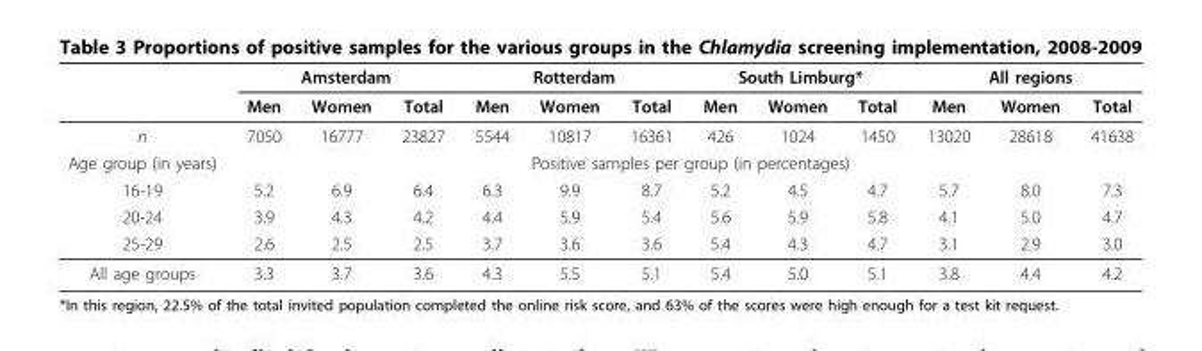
<table><thead><tr><td rowspan="2"></td><td colspan="3">Amsterdam</td><td colspan="3">Rotterdam</td><td colspan="3">South Limburg*</td><td colspan="3">All regions</td></tr><tr><td>Men</td><td>Women</td><td>Total</td><td>Men</td><td>Women</td><td>Total</td><td>Men</td><td>Women</td><td>Total</td><td>Men</td><td>Women</td><td>Total</td></tr></thead><tbody><tr><td>n</td><td>7050</td><td>16777</td><td>23827</td><td>5544</td><td>10817</td><td>16361</td><td>426</td><td>1024</td><td>1450</td><td>13020</td><td>28618</td><td>41638</td></tr><tr><td>Age group (in years)</td><td colspan="12">Positive samples per group (in percentages)</td></tr><tr><td>16-19</td><td>5.2</td><td>6.9</td><td>6.4</td><td>6.3</td><td>9.9</td><td>8.7</td><td>5.2</td><td>4.5</td><td>4.7</td><td>5.7</td><td>8.0</td><td>7.3</td></tr><tr><td>20-24</td><td>3.9</td><td>4.3</td><td>4.2</td><td>4.4</td><td>5.9</td><td>5.4</td><td>5.6</td><td>5.9</td><td>5.8</td><td>4.1</td><td>5.0</td><td>4.7</td></tr><tr><td>25-29</td><td>2.6</td><td>2.5</td><td>2.5</td><td>3.7</td><td>3.6</td><td>3.6</td><td>5.4</td><td>4.3</td><td>4.7</td><td>3.1</td><td>2.9</td><td>3.0</td></tr><tr><td>All age groups</td><td>3.3</td><td>3.7</td><td>3.6</td><td>4.3</td><td>5.5</td><td>5.1</td><td>5.4</td><td>5.0</td><td>5.1</td><td>3.8</td><td>4.4</td><td>4.2</td></tr></tbody></table>